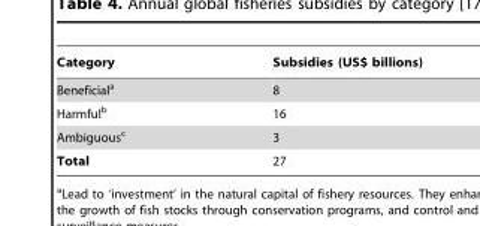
<table><thead><tr><td>Category</td><td>Subsidies (US$ billions)</td></tr></thead><tbody><tr><td>Beneficial<sup>a</sup></td><td>8</td></tr><tr><td>Harmful<sup>b</sup></td><td>16</td></tr><tr><td>Ambiguous<sup>c</sup></td><td>3</td></tr><tr><td>Total</td><td>27</td></tr></tbody></table>